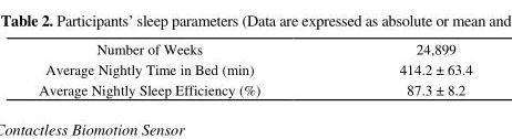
<table><tbody><tr><td>Number of Weeks</td><td>24,899</td></tr><tr><td>Average Nightly Time in Bed (min)</td><td>414.2 ± 63.4</td></tr><tr><td>Average Nightly Sleep Efficiency (%)</td><td>87.3 ± 8.2</td></tr></tbody></table>